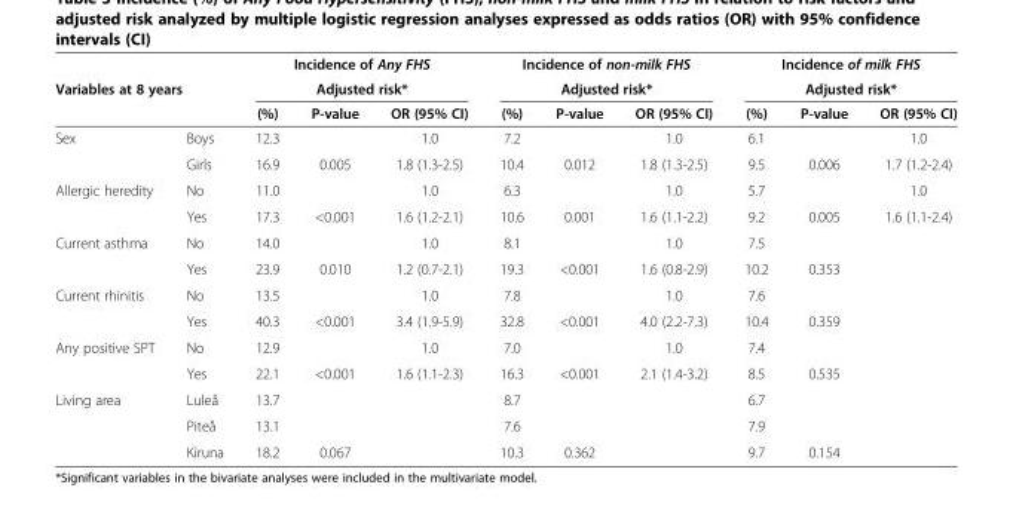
<table><thead><tr><td></td><td></td><td rowspan="2" colspan="3">Incidence of Any FHS Adjusted risk*</td><td rowspan="2" colspan="3">Incidence of non-milk FHS Adjusted risk*</td><td rowspan="2" colspan="3">Incidence of milk FHS Adjusted risk*</td></tr><tr><td rowspan="2" colspan="2">Variables at 8 years</td></tr><tr><td>(%)</td><td>P-value</td><td>OR (95% CI)</td><td>(%)</td><td>P-value</td><td>OR (95% CI)</td><td>(%)</td><td>P-value</td><td>OR (95% CI)</td></tr></thead><tbody><tr><td rowspan="2">Sex</td><td>Boys</td><td>12.3</td><td></td><td>1.0</td><td>7.2</td><td></td><td>1.0</td><td>6.1</td><td></td><td>1.0</td></tr><tr><td>Girls</td><td>16.9</td><td>0.005</td><td>1.8 (1.3-2.5)</td><td>10.4</td><td>0.012</td><td>1.8 (1.3-2.5)</td><td>9.5</td><td>0.006</td><td>1.7 (1.2-2.4)</td></tr><tr><td rowspan="2">Allergic heredity</td><td>No</td><td>11.0</td><td></td><td>1.0</td><td>6.3</td><td></td><td>1.0</td><td>5.7</td><td></td><td>1.0</td></tr><tr><td>Yes</td><td>17.3</td><td>&lt;0.001</td><td>1.6 (1.2-2.1)</td><td>10.6</td><td>0.001</td><td>1.6 (1.1-2.2)</td><td>9.2</td><td>0.005</td><td>1.6 (1.1-2.4)</td></tr><tr><td rowspan="2">Current asthma</td><td>No</td><td>14.0</td><td></td><td>1.0</td><td>8.1</td><td></td><td>1.0</td><td>7.5</td><td></td><td></td></tr><tr><td>Yes</td><td>23.9</td><td>0.010</td><td>1.2 (0.7-2.1)</td><td>19.3</td><td>&lt;0.001</td><td>1.6 (0.8-2.9)</td><td>10.2</td><td>0.353</td><td></td></tr><tr><td rowspan="2">Current rhinitis</td><td>No</td><td>13.5</td><td></td><td>1.0</td><td>7.8</td><td></td><td>1.0</td><td>7.6</td><td></td><td></td></tr><tr><td>Yes</td><td>40.3</td><td>&lt;0.001</td><td>3.4 (1.9-5.9)</td><td>32.8</td><td>&lt;0.001</td><td>4.0 (2.2-7.3)</td><td>10.4</td><td>0.359</td><td></td></tr><tr><td rowspan="2">Any positive SPT</td><td>No</td><td>12.9</td><td></td><td>1.0</td><td>7.0</td><td></td><td>1.0</td><td>7.4</td><td></td><td></td></tr><tr><td>Yes</td><td>22.1</td><td>&lt;0.001</td><td>1.6 (1.1-2.3)</td><td>16.3</td><td>&lt;0.001</td><td>2.1 (1.4-3.2)</td><td>8.5</td><td>0.535</td><td></td></tr><tr><td rowspan="3">Living area</td><td>Luleå</td><td>13.7</td><td></td><td></td><td>8.7</td><td></td><td></td><td>6.7</td><td></td><td></td></tr><tr><td>Piteå</td><td>13.1</td><td></td><td></td><td>7.6</td><td></td><td></td><td>7.9</td><td></td><td></td></tr><tr><td>Kiruna</td><td>18.2</td><td>0.067</td><td></td><td>10.3</td><td>0.362</td><td></td><td>9.7</td><td>0.154</td><td></td></tr></tbody></table>